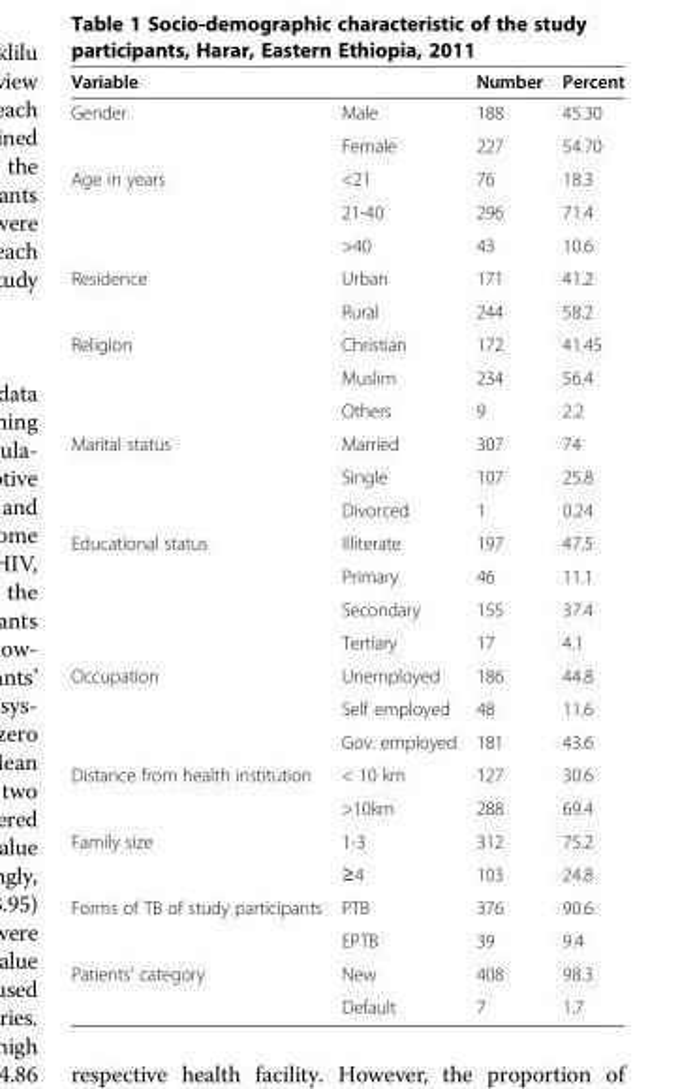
<table><thead><tr><td>Variable</td><td></td><td>Number</td><td>Percent</td></tr></thead><tbody><tr><td rowspan="2">Gender</td><td>Male</td><td>188</td><td>45.30</td></tr><tr><td>Female</td><td>227</td><td>54.70</td></tr><tr><td rowspan="3">Age in years</td><td>&lt;21</td><td>76</td><td>18.3</td></tr><tr><td>21-40</td><td>296</td><td>71.4</td></tr><tr><td>&gt;40</td><td>43</td><td>10.6</td></tr><tr><td rowspan="2">Residence</td><td>Urban</td><td>171</td><td>41.2</td></tr><tr><td>Rural</td><td>244</td><td>58.2</td></tr><tr><td rowspan="3">Religion</td><td>Christian</td><td>172</td><td>41.45</td></tr><tr><td>Muslim</td><td>234</td><td>56.4</td></tr><tr><td>Others</td><td>9</td><td>2.2</td></tr><tr><td rowspan="3">Marital status</td><td>Married</td><td>307</td><td>74</td></tr><tr><td>Single</td><td>107</td><td>25.8</td></tr><tr><td>Divorced</td><td>1</td><td>0.24</td></tr><tr><td rowspan="4">Educational status</td><td>Illiterate</td><td>197</td><td>47.5</td></tr><tr><td>Primary</td><td>46</td><td>11.1</td></tr><tr><td>Secondary</td><td>155</td><td>37.4</td></tr><tr><td>Tertiary</td><td>17</td><td>4.1</td></tr><tr><td rowspan="3">Occupation</td><td>Unemployed</td><td>186</td><td>44.8</td></tr><tr><td>Self employed</td><td>48</td><td>11.6</td></tr><tr><td>Gov. employed</td><td>181</td><td>43.6</td></tr><tr><td rowspan="2">Distance from health institution</td><td>&lt; 10 km</td><td>127</td><td>30.6</td></tr><tr><td>&gt;10km</td><td>288</td><td>69.4</td></tr><tr><td rowspan="2">Family size</td><td>1-3</td><td>312</td><td>75.2</td></tr><tr><td>≥4</td><td>103</td><td>24.8</td></tr><tr><td rowspan="2">Forms of TB of study participants</td><td>PTB</td><td>376</td><td>90.6</td></tr><tr><td>EPTB</td><td>39</td><td>9.4</td></tr><tr><td rowspan="2">Patients’ category</td><td>New</td><td>408</td><td>98.3</td></tr><tr><td>Default</td><td>7</td><td>1.7</td></tr></tbody></table>